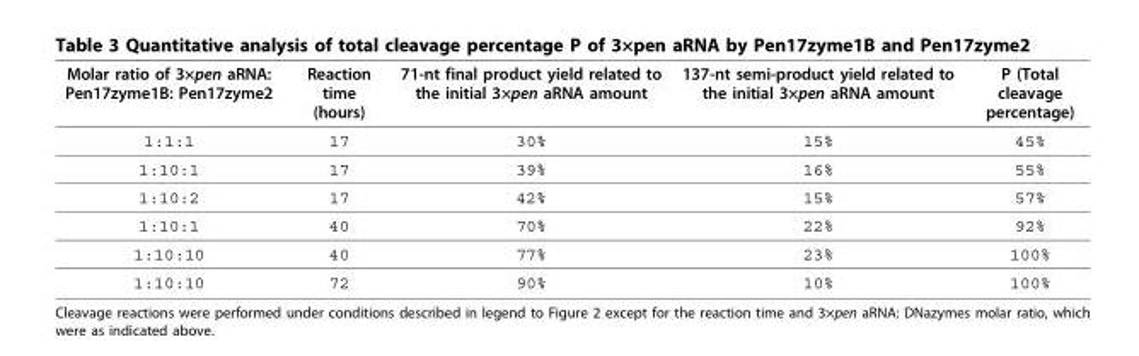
<table><thead><tr><td>Molar ratio of 3×pen aRNA: Pen17zyme1B: Pen17zyme2</td><td>Reaction time (hours)</td><td>71-nt final product yield related to the initial 3×pen aRNA amount</td><td>137-nt semi-product yield related to the initial 3×pen aRNA amount</td><td>P (Total cleavage percentage)</td></tr></thead><tbody><tr><td>1:1:1</td><td>17</td><td>30%</td><td>15%</td><td>45%</td></tr><tr><td>1:10:1</td><td>17</td><td>39%</td><td>16%</td><td>55%</td></tr><tr><td>1:10:2</td><td>17</td><td>42%</td><td>15%</td><td>57%</td></tr><tr><td>1:10:1</td><td>40</td><td>70%</td><td>22%</td><td>92%</td></tr><tr><td>1:10:10</td><td>40</td><td>77%</td><td>23%</td><td>100%</td></tr><tr><td>1:10:10</td><td>72</td><td>90%</td><td>10%</td><td>100%</td></tr></tbody></table>